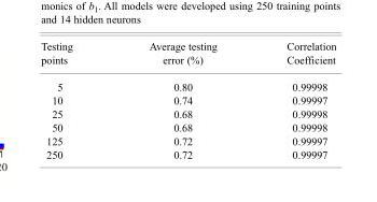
<table><thead><tr><td>Testing points</td><td>Average testing error (%)</td><td>Correlation Coefficient</td></tr></thead><tbody><tr><td>5</td><td>0.80</td><td>0.99998</td></tr><tr><td>10</td><td>0.74</td><td>0.99997</td></tr><tr><td>25</td><td>0.68</td><td>0.99998</td></tr><tr><td>50</td><td>0.68</td><td>0.99998</td></tr><tr><td>125</td><td>0.72</td><td>0.99997</td></tr><tr><td>250</td><td>0.72</td><td>0.99997</td></tr></tbody></table>